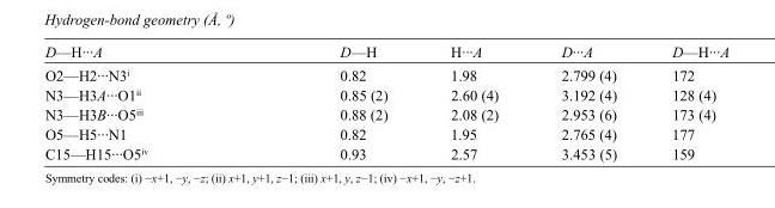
<table><tbody><tr><td>D—H···A</td><td>D—H</td><td>H···A</td><td>D···A</td><td>D—H···A</td></tr><tr><td>O2—H2···N3<sup>i</sup></td><td>0.82</td><td>1.98</td><td>2.799 (4)</td><td>172</td></tr><tr><td>N3—H3A···O1<sup>ii</sup></td><td>0.85 (2)</td><td>2.60 (4)</td><td>3.192 (4)</td><td>128 (4)</td></tr><tr><td>N3—H3B···O5<sup>iii</sup></td><td>0.88 (2)</td><td>2.08 (2)</td><td>2.953 (6)</td><td>173 (4)</td></tr><tr><td>O5—H5···N1</td><td>0.82</td><td>1.95</td><td>2.765 (4)</td><td>177</td></tr><tr><td>C15—H15···O5<sup>iv</sup></td><td>0.93</td><td>2.57</td><td>3.453 (5)</td><td>159</td></tr></tbody></table>